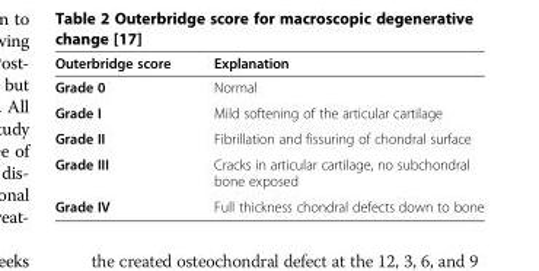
<table><thead><tr><td>Outerbridge score</td><td>Explanation</td></tr></thead><tbody><tr><td>Grade 0</td><td>Normal</td></tr><tr><td>Grade I</td><td>Mild softening of the articular cartilage</td></tr><tr><td>Grade II</td><td>Fibrillation and fissuring of chondral surface</td></tr><tr><td>Grade III</td><td>Cracks in articular cartilage, no subchondral bone exposed</td></tr><tr><td>Grade IV</td><td>Full thickness chondral defects down to bone</td></tr></tbody></table>